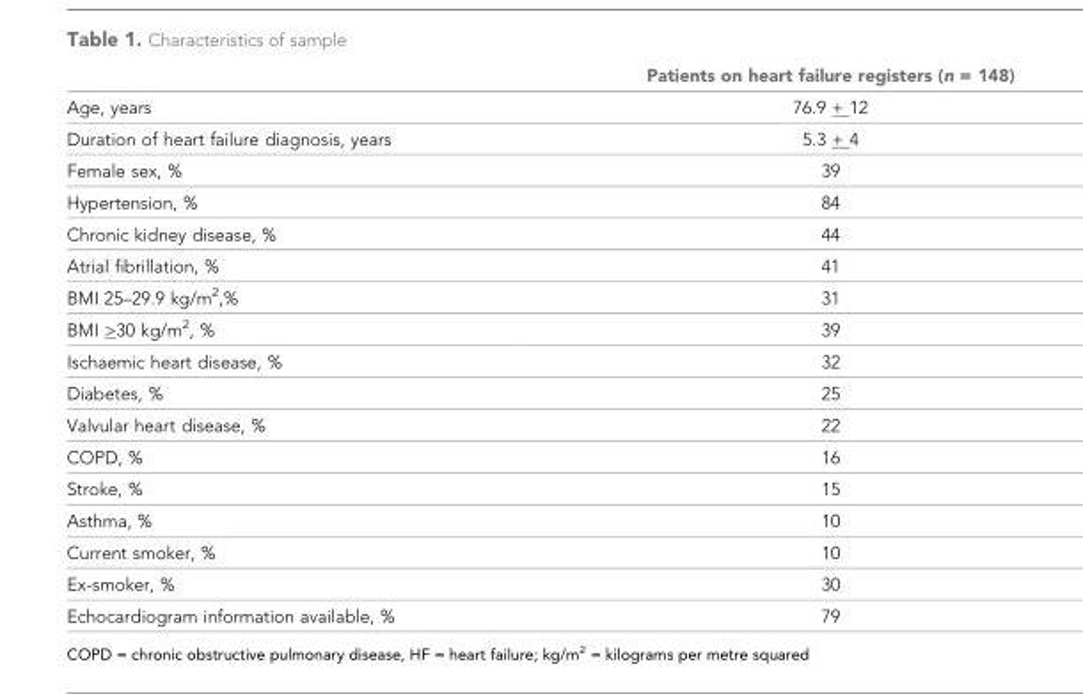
<table><thead><tr><td></td><td>Patients on heart failure registers (n = 148)</td></tr></thead><tbody><tr><td>Age, years</td><td>76.9 + 12</td></tr><tr><td>Duration of heart failure diagnosis, years</td><td>5.3 + 4</td></tr><tr><td>Female sex, %</td><td>39</td></tr><tr><td>Hypertension, %</td><td>84</td></tr><tr><td>Chronic kidney disease, %</td><td>44</td></tr><tr><td>Atrial fibrillation, %</td><td>41</td></tr><tr><td>BMI 25–29.9 kg/m<sup>2</sup>,%</td><td>31</td></tr><tr><td>BMI &gt;30 kg/m<sup>2</sup>, %</td><td>39</td></tr><tr><td>Ischaemic heart disease, %</td><td>32</td></tr><tr><td>Diabetes, %</td><td>25</td></tr><tr><td>Valvular heart disease, %</td><td>22</td></tr><tr><td>COPD, %</td><td>16</td></tr><tr><td>Stroke, %</td><td>15</td></tr><tr><td>Asthma, %</td><td>10</td></tr><tr><td>Current smoker, %</td><td>10</td></tr><tr><td>Ex-smoker, %</td><td>30</td></tr><tr><td>Echocardiogram information available, %</td><td>79</td></tr></tbody></table>